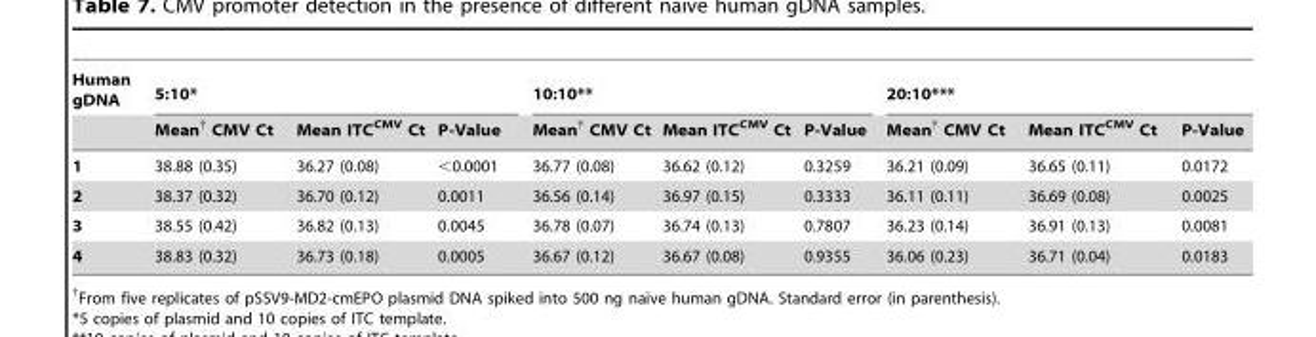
<table><thead><tr><td rowspan="2">Human gDNA</td><td colspan="3">5:10*</td><td colspan="3">10:10**</td><td colspan="3">20:10***</td></tr><tr><td>Mean† CMV Ct</td><td>Mean ITC<sup>CMV</sup> Ct</td><td>P-Value</td><td>Mean† CMV Ct</td><td>Mean ITC<sup>CMV</sup> Ct</td><td>P-Value</td><td>Mean† CMV Ct</td><td>Mean ITC<sup>CMV</sup> Ct</td><td>P-Value</td></tr></thead><tbody><tr><td>1</td><td>38.88 (0.35)</td><td>36.27 (0.08)</td><td>&lt;0.0001</td><td>36.77 (0.08)</td><td>36.62 (0.12)</td><td>0.3259</td><td>36.21 (0.09)</td><td>36.65 (0.11)</td><td>0.0172</td></tr><tr><td>2</td><td>38.37 (0.32)</td><td>36.70 (0.12)</td><td>0.0011</td><td>36.56 (0.14)</td><td>36.97 (0.15)</td><td>0.3333</td><td>36.11 (0.11)</td><td>36.69 (0.08)</td><td>0.0025</td></tr><tr><td>3</td><td>38.55 (0.42)</td><td>36.82 (0.13)</td><td>0.0045</td><td>36.78 (0.07)</td><td>36.74 (0.13)</td><td>0.7807</td><td>36.23 (0.14)</td><td>36.91 (0.13)</td><td>0.0081</td></tr><tr><td>4</td><td>38.83 (0.32)</td><td>36.73 (0.18)</td><td>0.0005</td><td>36.67 (0.12)</td><td>36.67 (0.08)</td><td>0.9355</td><td>36.06 (0.23)</td><td>36.71 (0.04)</td><td>0.0183</td></tr></tbody></table>